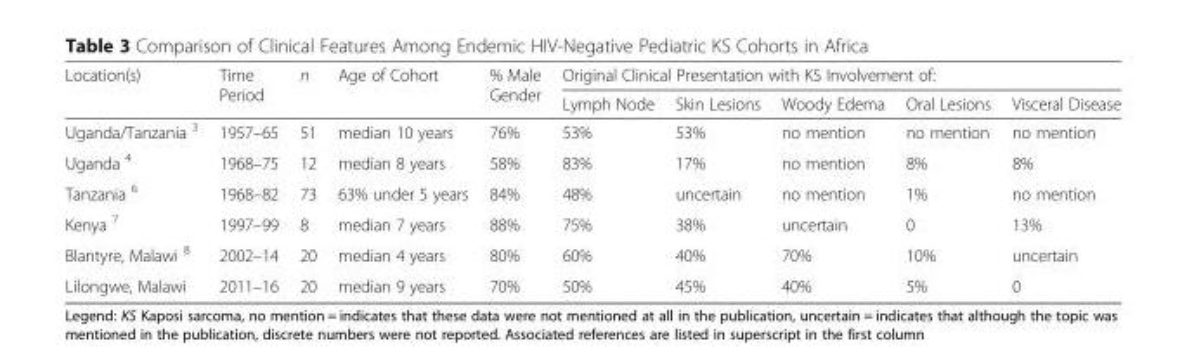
<table><thead><tr><td rowspan="2">Location(s)</td><td rowspan="2">Time Period</td><td rowspan="2">n</td><td rowspan="2">Age of Cohort</td><td rowspan="2">% Male Gender</td><td colspan="5">Original Clinical Presentation with KS Involvement of:</td></tr><tr><td>Lymph Node</td><td>Skin Lesions</td><td>Woody Edema</td><td>Oral Lesions</td><td>Visceral Disease</td></tr></thead><tbody><tr><td>Uganda/Tanzania <sup>3</sup></td><td>1957–65</td><td>51</td><td>median 10 years</td><td>76%</td><td>53%</td><td>53%</td><td>no mention</td><td>no mention</td><td>no mention</td></tr><tr><td>Uganda <sup>4</sup></td><td>1968–75</td><td>12</td><td>median 8 years</td><td>58%</td><td>83%</td><td>17%</td><td>no mention</td><td>8%</td><td>8%</td></tr><tr><td>Tanzania <sup>6</sup></td><td>1968–82</td><td>73</td><td>63% under 5 years</td><td>84%</td><td>48%</td><td>uncertain</td><td>no mention</td><td>1%</td><td>no mention</td></tr><tr><td>Kenya <sup>7</sup></td><td>1997–99</td><td>8</td><td>median 7 years</td><td>88%</td><td>75%</td><td>38%</td><td>uncertain</td><td>0</td><td>13%</td></tr><tr><td>Blantyre, Malawi <sup>8</sup></td><td>2002–14</td><td>20</td><td>median 4 years</td><td>80%</td><td>60%</td><td>40%</td><td>70%</td><td>10%</td><td>uncertain</td></tr><tr><td>Lilongwe, Malawi</td><td>2011–16</td><td>20</td><td>median 9 years</td><td>70%</td><td>50%</td><td>45%</td><td>40%</td><td>5%</td><td>0</td></tr></tbody></table>